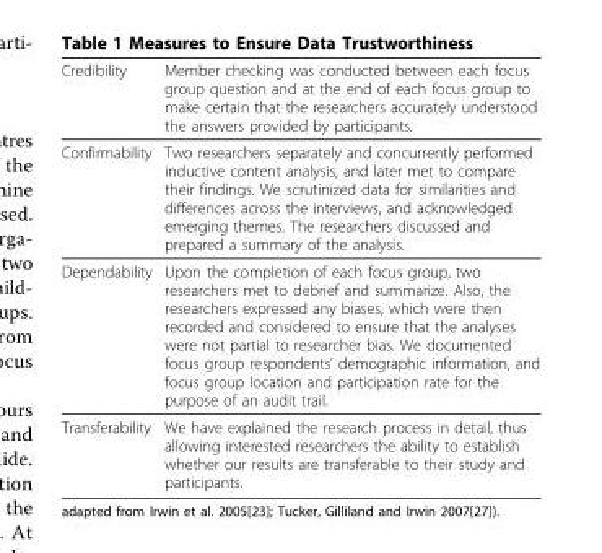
<table><thead><tr><td>Credibility</td><td>Member checking was conducted between each focus group question and at the end of each focus group to make certain that the researchers accurately understood the answers provided by participants.</td></tr></thead><tbody><tr><td>Confirmability</td><td>Two researchers separately and concurrently performed inductive content analysis, and later met to compare their findings. We scrutinized data for similarities and differences across the interviews, and acknowledged emerging themes. The researchers discussed and prepared a summary of the analysis.</td></tr><tr><td>Dependability</td><td>Upon the completion of each focus group, two researchers met to debrief and summarize. Also, the researchers expressed any biases, which were then recorded and considered to ensure that the analyses were not partial to researcher bias. We documented focus group respondents’ demographic information, and focus group location and participation rate for the purpose of an audit trail.</td></tr><tr><td>Transferability</td><td>We have explained the research process in detail, thus allowing interested researchers the ability to establish whether our results are transferable to their study and participants.</td></tr></tbody></table>